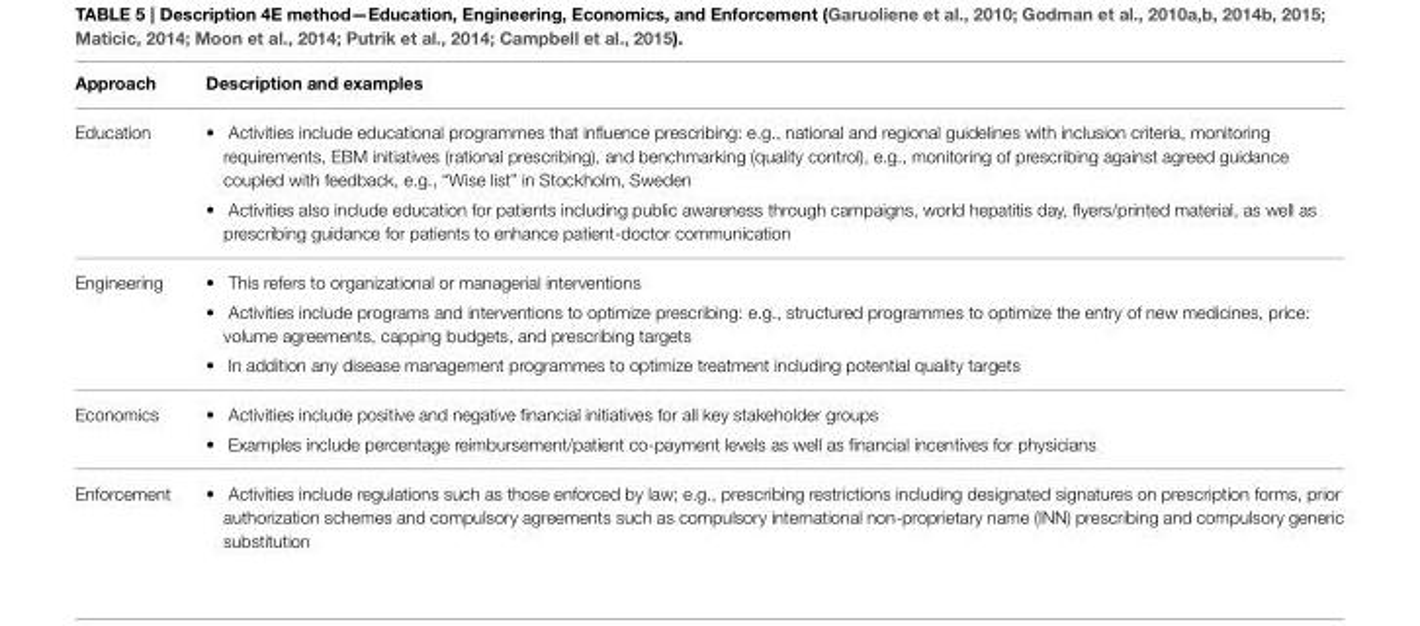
<table><thead><tr><td>Approach</td><td>Description and examples</td></tr></thead><tbody><tr><td rowspan="2">Education</td><td>• Activities include educational programmes that influence prescribing: e.g., national and regional guidelines with inclusion criteria, monitoring requirements, EBM initiatives (rational prescribing), and benchmarking (quality control), e.g., monitoring of prescribing against agreed guidance coupled with feedback, e.g., “Wise list” in Stockholm, Sweden</td></tr><tr><td>• Activities also include education for patients including public awareness through campaigns, world hepatitis day, flyers/printed material, as well as prescribing guidance for patients to enhance patient-doctor communication</td></tr><tr><td rowspan="3">Engineering</td><td>• This refers to organizational or managerial interventions</td></tr><tr><td>• Activities include programs and interventions to optimize prescribing: e.g., structured programmes to optimize the entry of new medicines, price: volume agreements, capping budgets, and prescribing targets</td></tr><tr><td>• In addition any disease management programmes to optimize treatment including potential quality targets</td></tr><tr><td rowspan="2">Economics</td><td>• Activities include positive and negative financial initiatives for all key stakeholder groups</td></tr><tr><td>• Examples include percentage reimbursement/patient co-payment levels as well as financial incentives for physicians</td></tr><tr><td>Enforcement</td><td>• Activities include regulations such as those enforced by law; e.g., prescribing restrictions including designated signatures on prescription forms, prior authorization schemes and compulsory agreements such as compulsory international non-proprietary name (INN) prescribing and compulsory generic substitution</td></tr></tbody></table>